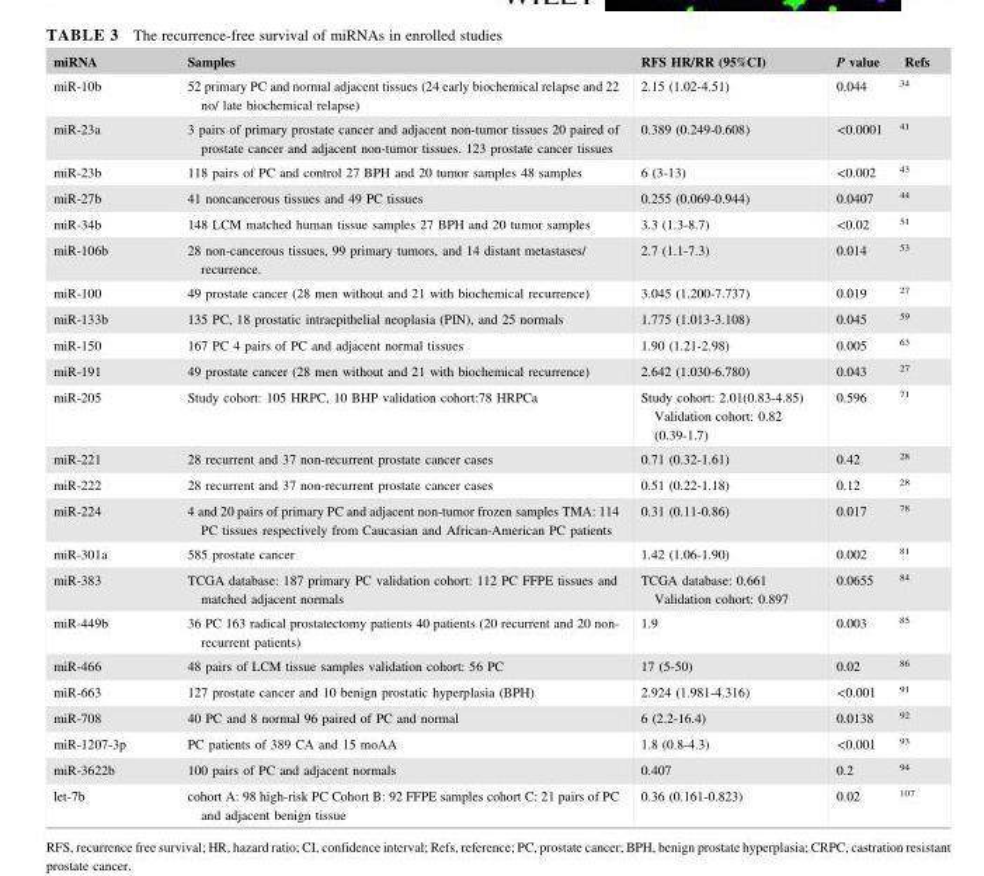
<table><thead><tr><td>miRNA</td><td>Samples</td><td>RFS HR/RR (95%CI)</td><td>P value</td><td>Refs</td></tr></thead><tbody><tr><td>miR-10b</td><td>52 primary PC and normal adjacent tissues (24 early biochemical relapse and 22 no/ late biochemical relapse)</td><td>2.15 (1.02-4.51)</td><td>0.044</td><td>34</td></tr><tr><td>miR-23a</td><td>3 pairs of primary prostate cancer and adjacent non-tumor tissues 20 paired of prostate cancer and adjacent non-tumor tissues. 123 prostate cancer tissues</td><td>0.389 (0.249-0.608)</td><td>&lt;0.0001</td><td>41</td></tr><tr><td>miR-23b</td><td>118 pairs of PC and control 27 BPH and 20 tumor samples 48 samples</td><td>6 (3-13)</td><td>&lt;0.002</td><td>43</td></tr><tr><td>miR-27b</td><td>41 noncancerous tissues and 49 PC tissues</td><td>0.255 (0.069-0.944)</td><td>0.0407</td><td>44</td></tr><tr><td>miR-34b</td><td>148 LCM matched human tissue samples 27 BPH and 20 tumor samples</td><td>3.3 (1.3-8.7)</td><td>&lt;0.02</td><td>51</td></tr><tr><td>miR-106b</td><td>28 non-cancerous tissues, 99 primary tumors, and 14 distant metastases/ recurrence.</td><td>2.7 (1.1-7.3)</td><td>0.014</td><td>53</td></tr><tr><td>miR-100</td><td>49 prostate cancer (28 men without and 21 with biochemical recurrence)</td><td>3.045 (1.200-7.737)</td><td>0.019</td><td>27</td></tr><tr><td>miR-133b</td><td>135 PC, 18 prostatic intraepithelial neoplasia (PIN), and 25 normals</td><td>1.775 (1.013-3.108)</td><td>0.045</td><td>59</td></tr><tr><td>miR-150</td><td>167 PC 4 pairs of PC and adjacent normal tissues</td><td>1.90 (1.21-2.98)</td><td>0.005</td><td>63</td></tr><tr><td>miR-191</td><td>49 prostate cancer (28 men without and 21 with biochemical recurrence)</td><td>2.642 (1.030-6.780)</td><td>0.043</td><td>27</td></tr><tr><td>miR-205</td><td>Study cohort: 105 HRPC, 10 BHP validation cohort:78 HRPCa</td><td>Study cohort: 2.01(0.83-4.85) Validation cohort: 0.82 (0.39-1.7)</td><td>0.596</td><td>71</td></tr><tr><td>miR-221</td><td>28 recurrent and 37 non-recurrent prostate cancer cases</td><td>0.71 (0.32-1.61)</td><td>0.42</td><td>28</td></tr><tr><td>miR-222</td><td>28 recurrent and 37 non-recurrent prostate cancer cases</td><td>0.51 (0.22-1.18)</td><td>0.12</td><td>28</td></tr><tr><td>miR-224</td><td>4 and 20 pairs of primary PC and adjacent non-tumor frozen samples TMA: 114 PC tissues respectively from Caucasian and African-American PC patients</td><td>0.31 (0.11-0.86)</td><td>0.017</td><td>78</td></tr><tr><td>miR-301a</td><td>585 prostate cancer</td><td>1.42 (1.06-1.90)</td><td>0.002</td><td>81</td></tr><tr><td>miR-383</td><td>TCGA database: 187 primary PC validation cohort: 112 PC FFPE tissues and matched adjacent normals</td><td>TCGA database: 0.661 Validation cohort: 0.897</td><td>0.0655</td><td>84</td></tr><tr><td>miR-449b</td><td>36 PC 163 radical prostatectomy patients 40 patients (20 recurrent and 20 non- recurrent patients)</td><td>1.9</td><td>0.003</td><td>85</td></tr><tr><td>miR-466</td><td>48 pairs of LCM tissue samples validation cohort: 56 PC</td><td>17 (5-50)</td><td>0.02</td><td>86</td></tr><tr><td>miR-663</td><td>127 prostate cancer and 10 benign prostatic hyperplasia (BPH)</td><td>2.924 (1.981-4.316)</td><td>&lt;0.001</td><td>91</td></tr><tr><td>miR-708</td><td>40 PC and 8 normal 96 paired of PC and normal</td><td>6 (2.2-16.4)</td><td>0.0138</td><td>92</td></tr><tr><td>miR-1207-3p</td><td>PC patients of 389 CA and 15 moAA</td><td>1.8 (0.8-4.3)</td><td>&lt;0.001</td><td>93</td></tr><tr><td>miR-3622b</td><td>100 pairs of PC and adjacent normals</td><td>0.407</td><td>0.2</td><td>94</td></tr><tr><td>let-7b</td><td>cohort A: 98 high-risk PC Cohort B: 92 FFPE samples cohort C: 21 pairs of PC and adjacent benign tissue</td><td>0.36 (0.161-0.823)</td><td>0.02</td><td>107</td></tr></tbody></table>